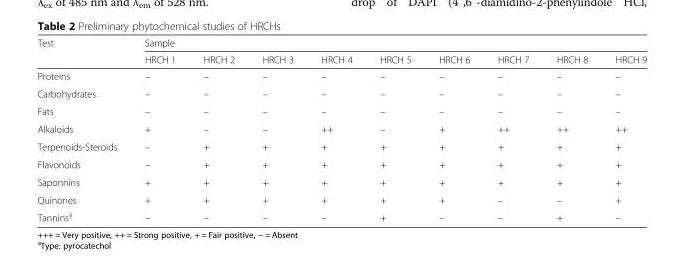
<table><thead><tr><td rowspan="2">Test</td><td colspan="9">Sample</td></tr><tr><td>HRCH 1</td><td>HRCH 2</td><td>HRCH 3</td><td>HRCH 4</td><td>HRCH 5</td><td>HRCH 6</td><td>HRCH 7</td><td>HRCH 8</td><td>HRCH 9</td></tr></thead><tbody><tr><td>Proteins</td><td>–</td><td>–</td><td>–</td><td>–</td><td>–</td><td>–</td><td>–</td><td>–</td><td>–</td></tr><tr><td>Carbohydrates</td><td>–</td><td>–</td><td>–</td><td>–</td><td>–</td><td>–</td><td>–</td><td>–</td><td>–</td></tr><tr><td>Fats</td><td>–</td><td>–</td><td>–</td><td>–</td><td>–</td><td>–</td><td>–</td><td>–</td><td>–</td></tr><tr><td>Alkaloids</td><td>+</td><td>–</td><td>–</td><td>++</td><td>–</td><td>+</td><td>++</td><td>++</td><td>++</td></tr><tr><td>Terpenoids-Steroids</td><td>–</td><td>+</td><td>+</td><td>+</td><td>+</td><td>+</td><td>+</td><td>+</td><td>+</td></tr><tr><td>Flavonoids</td><td>–</td><td>+</td><td>+</td><td>+</td><td>+</td><td>+</td><td>+</td><td>+</td><td>+</td></tr><tr><td>Saponnins</td><td>+</td><td>+</td><td>+</td><td>+</td><td>+</td><td>+</td><td>+</td><td>+</td><td>+</td></tr><tr><td>Quinones</td><td>+</td><td>+</td><td>+</td><td>+</td><td>+</td><td>+</td><td>–</td><td>–</td><td>+</td></tr><tr><td>Tannins<sup>a</sup></td><td>–</td><td>–</td><td>–</td><td>–</td><td>+</td><td>–</td><td>–</td><td>+</td><td>–</td></tr></tbody></table>